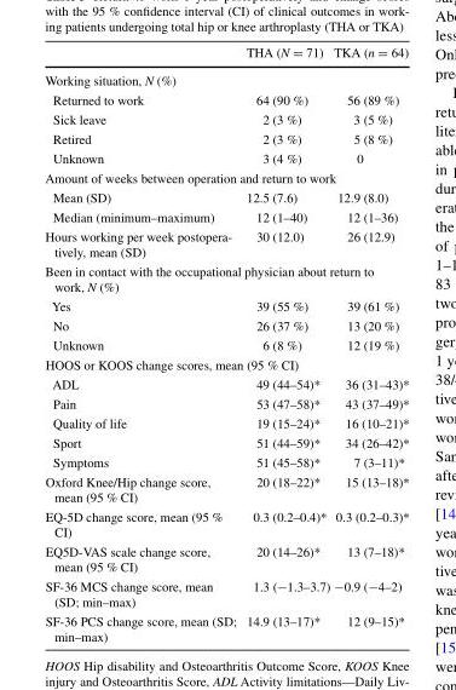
<table><thead><tr><td></td><td>THA (N = 71)</td><td>TKA (n = 64)</td></tr></thead><tbody><tr><td colspan="3">Working situation, N (%)</td></tr><tr><td>Returned to work</td><td>64 (90 %)</td><td>56 (89 %)</td></tr><tr><td>Sick leave</td><td>2 (3 %)</td><td>3 (5 %)</td></tr><tr><td>Retired</td><td>2 (3 %)</td><td>5 (8 %)</td></tr><tr><td>Unknown</td><td>3 (4 %)</td><td>0</td></tr><tr><td colspan="3">Amount of weeks between operation and return to work</td></tr><tr><td>Mean (SD)</td><td>12.5 (7.6)</td><td>12.9 (8.0)</td></tr><tr><td>Median (minimum–maximum)</td><td>12 (1–40)</td><td>12 (1–36)</td></tr><tr><td>Hours working per week postopera- tively, mean (SD)</td><td>30 (12.0)</td><td>26 (12.9)</td></tr><tr><td colspan="3">Been in contact with the occupational physician about return to work, N (%)</td></tr><tr><td>Yes</td><td>39 (55 %)</td><td>39 (61 %)</td></tr><tr><td>No</td><td>26 (37 %)</td><td>13 (20 %)</td></tr><tr><td>Unknown</td><td>6 (8 %)</td><td>12 (19 %)</td></tr><tr><td colspan="3">HOOS or KOOS change scores, mean (95 % CI)</td></tr><tr><td>ADL</td><td>49 (44–54)*</td><td>36 (31–43)*</td></tr><tr><td>Pain</td><td>53 (47–58)*</td><td>43 (37–49)*</td></tr><tr><td>Quality of life</td><td>19 (15–24)*</td><td>16 (10–21)*</td></tr><tr><td>Sport</td><td>51 (44–59)*</td><td>34 (26–42)*</td></tr><tr><td>Symptoms</td><td>51 (45–58)*</td><td>7 (3–11)*</td></tr><tr><td>Oxford Knee/Hip change score, mean (95 % CI)</td><td>20 (18–22)*</td><td>15 (13–18)*</td></tr><tr><td>EQ-5D change score, mean (95 % CI)</td><td>0.3 (0.2–0.4)*</td><td>0.3 (0.2–0.3)*</td></tr><tr><td>EQ5D-VAS scale change score, mean (95 % CI)</td><td>20 (14–26)*</td><td>13 (7–18)*</td></tr><tr><td>SF-36 MCS change score, mean (SD; min–max)</td><td>1.3 (−1.3–3.7)</td><td>−0.9 (−4–2)</td></tr><tr><td>SF-36 PCS change score, mean (SD; min–max)</td><td>14.9 (13–17)*</td><td>12 (9–15)*</td></tr></tbody></table>